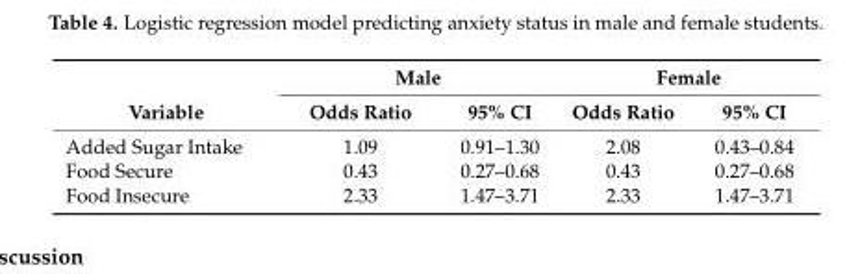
<table><thead><tr><td rowspan="2">Variable</td><td colspan="2">Male</td><td colspan="2">Female</td></tr><tr><td>Odds Ratio</td><td>95% CI</td><td>Odds Ratio</td><td>95% CI</td></tr></thead><tbody><tr><td>Added Sugar Intake</td><td>1.09</td><td>0.91–1.30</td><td>2.08</td><td>0.43–0.84</td></tr><tr><td>Food Secure</td><td>0.43</td><td>0.27–0.68</td><td>0.43</td><td>0.27–0.68</td></tr><tr><td>Food Insecure</td><td>2.33</td><td>1.47–3.71</td><td>2.33</td><td>1.47–3.71</td></tr></tbody></table>